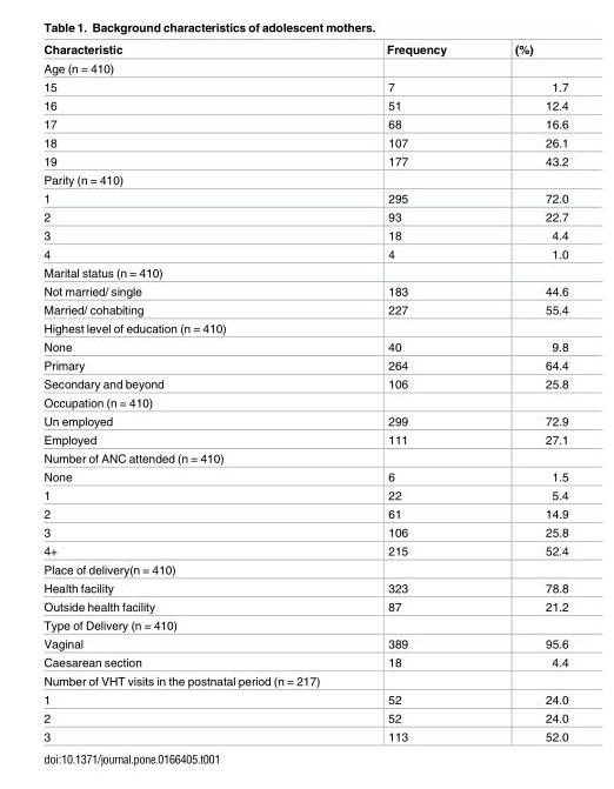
<table><thead><tr><td>Characteristic</td><td>Frequency</td><td>(%)</td></tr></thead><tbody><tr><td colspan="3">Age (n = 410)</td></tr><tr><td>15</td><td>7</td><td>1.7</td></tr><tr><td>16</td><td>51</td><td>12.4</td></tr><tr><td>17</td><td>68</td><td>16.6</td></tr><tr><td>18</td><td>107</td><td>26.1</td></tr><tr><td>19</td><td>177</td><td>43.2</td></tr><tr><td colspan="3">Parity (n = 410)</td></tr><tr><td>1</td><td>295</td><td>72.0</td></tr><tr><td>2</td><td>93</td><td>22.7</td></tr><tr><td>3</td><td>18</td><td>4.4</td></tr><tr><td>4</td><td>4</td><td>1.0</td></tr><tr><td colspan="3">Marital status (n = 410)</td></tr><tr><td>Not married/ single</td><td>183</td><td>44.6</td></tr><tr><td>Married/ cohabiting</td><td>227</td><td>55.4</td></tr><tr><td colspan="3">Highest level of education (n = 410)</td></tr><tr><td>None</td><td>40</td><td>9.8</td></tr><tr><td>Primary</td><td>264</td><td>64.4</td></tr><tr><td>Secondary and beyond</td><td>106</td><td>25.8</td></tr><tr><td colspan="3">Occupation (n = 410)</td></tr><tr><td>Un employed</td><td>299</td><td>72.9</td></tr><tr><td>Employed</td><td>111</td><td>27.1</td></tr><tr><td colspan="3">Number of ANC attended (n = 410)</td></tr><tr><td>None</td><td>6</td><td>1.5</td></tr><tr><td>1</td><td>22</td><td>5.4</td></tr><tr><td>2</td><td>61</td><td>14.9</td></tr><tr><td>3</td><td>106</td><td>25.8</td></tr><tr><td>4+</td><td>215</td><td>52.4</td></tr><tr><td colspan="3">Place of delivery(n = 410)</td></tr><tr><td>Health facility</td><td>323</td><td>78.8</td></tr><tr><td>Outside health facility</td><td>87</td><td>21.2</td></tr><tr><td colspan="3">Type of Delivery (n = 410)</td></tr><tr><td>Vaginal</td><td>389</td><td>95.6</td></tr><tr><td>Caesarean section</td><td>18</td><td>4.4</td></tr><tr><td colspan="3">Number of VHT visits in the postnatal period (n = 217)</td></tr><tr><td>1</td><td>52</td><td>24.0</td></tr><tr><td>2</td><td>52</td><td>24.0</td></tr><tr><td>3</td><td>113</td><td>52.0</td></tr></tbody></table>